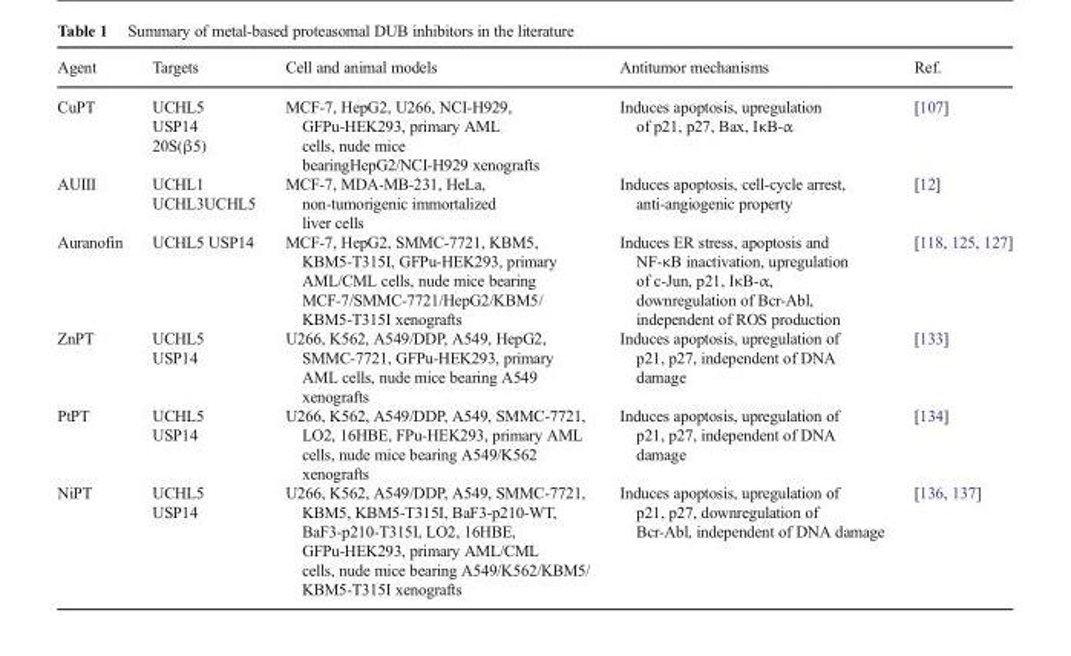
<table><thead><tr><td>Agent</td><td>Targets</td><td>Cell and animal models</td><td>Antitumor mechanisms</td><td>Ref.</td></tr></thead><tbody><tr><td>CuPT</td><td>UCHL5 USP14 20S(β5)</td><td>MCF-7, HepG2, U266, NCI-H929, GFPu-HEK293, primary AML cells, nude mice bearingHepG2/NCI-H929 xenografts</td><td>Induces apoptosis, upregulation of p21, p27, Bax, IκB-α</td><td>[107]</td></tr><tr><td>AUIII</td><td>UCHL1 UCHL3UCHL5</td><td>MCF-7, MDA-MB-231, HeLa, non-tumorigenic immortalized liver cells</td><td>Induces apoptosis, cell-cycle arrest, anti-angiogenic property</td><td>[12]</td></tr><tr><td>Auranofin</td><td>UCHL5 USP14</td><td>MCF-7, HepG2, SMMC-7721, KBM5, KBM5-T315I, GFPu-HEK293, primary AML/CML cells, nude mice bearing MCF-7/SMMC-7721/HepG2/KBM5/ KBM5-T315I xenografts</td><td>Induces ER stress, apoptosis and NF-κB inactivation, upregulation of c-Jun, p21, IκB-α, downregulation of Bcr-Abl, independent of ROS production</td><td>[118, 125, 127]</td></tr><tr><td>ZnPT</td><td>UCHL5 USP14</td><td>U266, K562, A549/DDP, A549, HepG2, SMMC-7721, GFPu-HEK293, primary AML cells, nude mice bearing A549 xenografts</td><td>Induces apoptosis, upregulation of p21, p27, independent of DNA damage</td><td>[133]</td></tr><tr><td>PtPT</td><td>UCHL5 USP14</td><td>U266, K562, A549/DDP, A549, SMMC-7721, LO2, 16HBE, FPu-HEK293, primary AML cells, nude mice bearing A549/K562 xenografts</td><td>Induces apoptosis, upregulation of p21, p27, independent of DNA damage</td><td>[134]</td></tr><tr><td>NiPT</td><td>UCHL5 USP14</td><td>U266, K562, A549/DDP, A549, SMMC-7721, KBM5, KBM5-T315I, BaF3-p210-WT, BaF3-p210-T315I, LO2, 16HBE, GFPu-HEK293, primary AML/CML cells, nude mice bearing A549/K562/KBM5/ KBM5-T315I xenografts</td><td>Induces apoptosis, upregulation of p21, p27, downregulation of Bcr-Abl, independent of DNA damage</td><td>[136, 137]</td></tr></tbody></table>